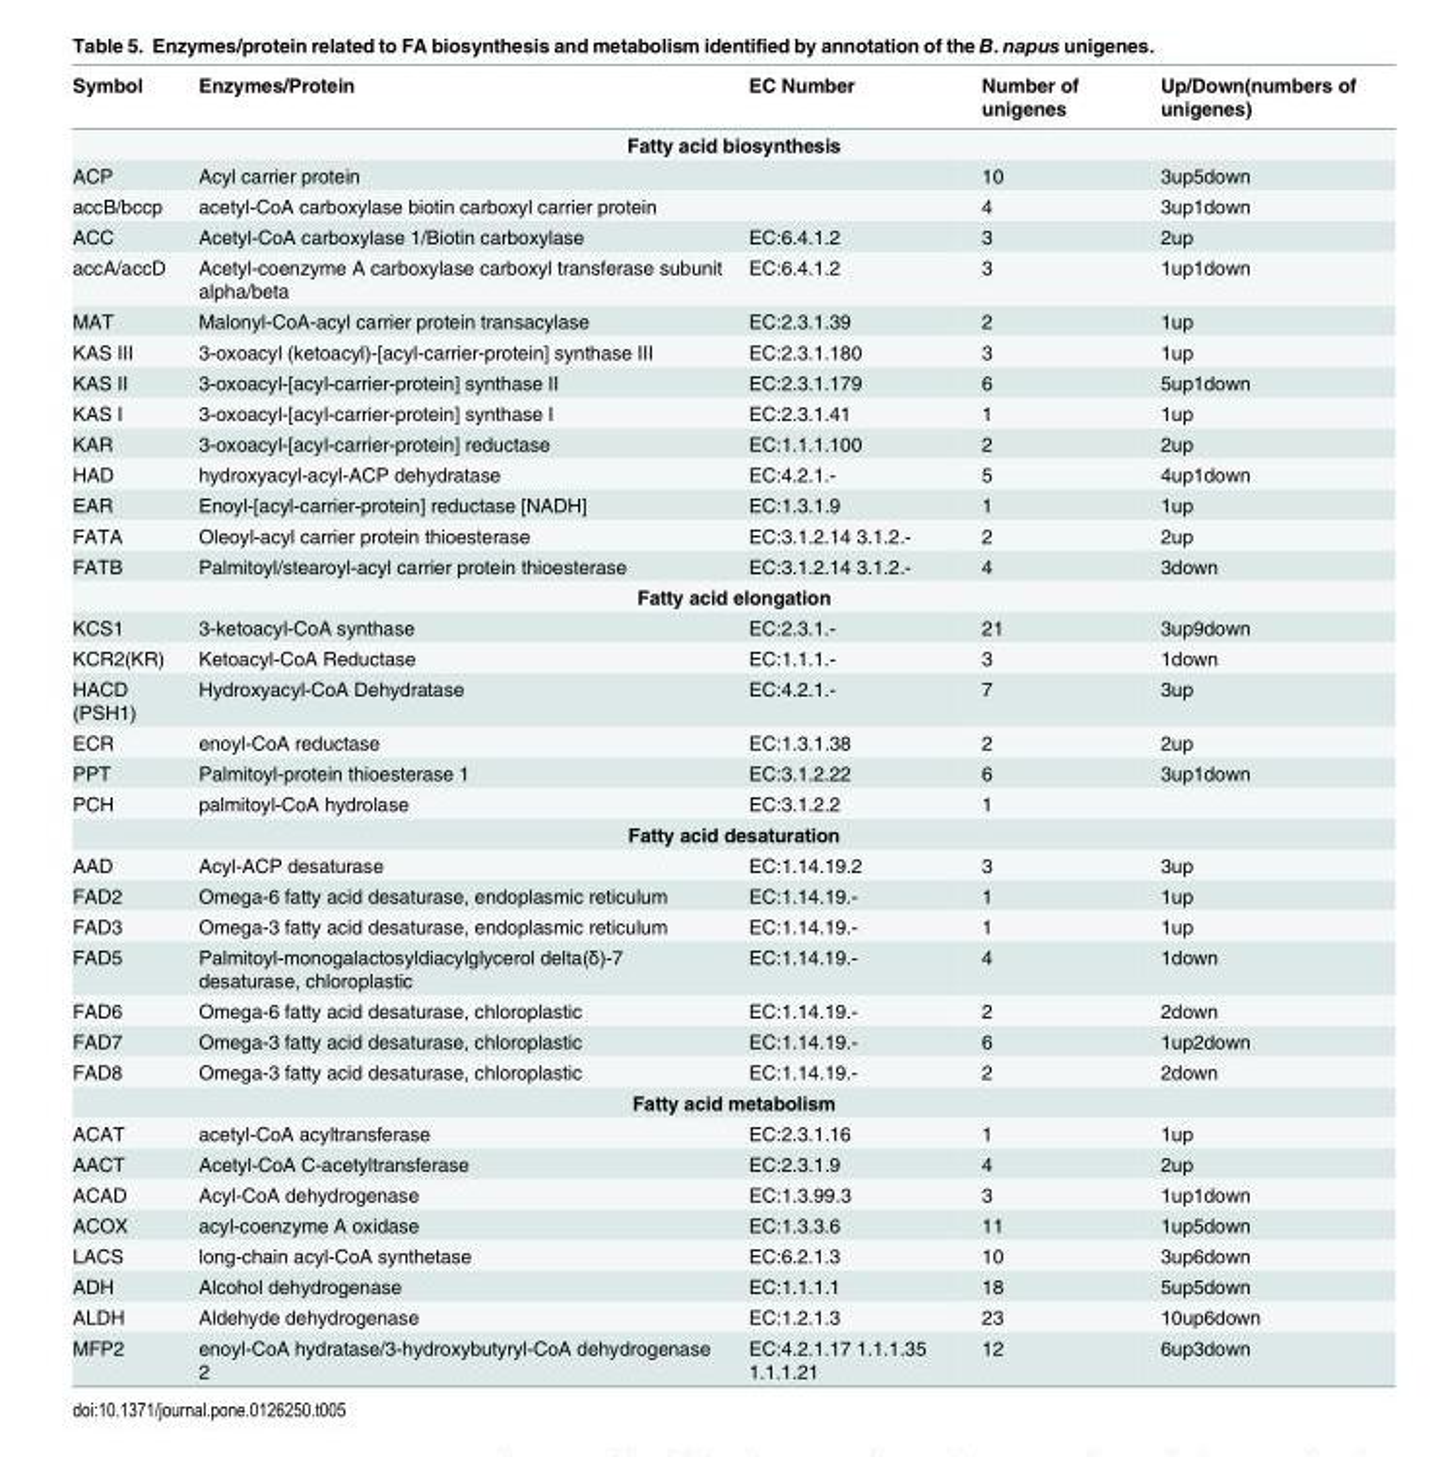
<table><thead><tr><td>Symbol</td><td>Enzymes/Protein</td><td>EC Number</td><td>Number of unigenes</td><td>Up/Down(numbers of unigenes)</td></tr></thead><tbody><tr><td colspan="5">Fatty acid biosynthesis</td></tr><tr><td>ACP</td><td>Acyl carrier protein</td><td></td><td>10</td><td>3up5down</td></tr><tr><td>accB/bccp</td><td>acetyl-CoA carboxylase biotin carboxyl carrier protein</td><td></td><td>4</td><td>3up1down</td></tr><tr><td>ACC</td><td>Acetyl-CoA carboxylase 1/Biotin carboxylase</td><td>EC:6.4.1.2</td><td>3</td><td>2up</td></tr><tr><td>accA/accD</td><td>Acetyl-coenzyme A carboxylase carboxyl transferase subunit alpha/beta</td><td>EC:6.4.1.2</td><td>3</td><td>1up1down</td></tr><tr><td>MAT</td><td>Malonyl-CoA-acyl carrier protein transacylase</td><td>EC:2.3.1.39</td><td>2</td><td>1up</td></tr><tr><td>KAS III</td><td>3-oxoacyl (ketoacyl)-[acyl-carrier-protein] synthase III</td><td>EC:2.3.1.180</td><td>3</td><td>1up</td></tr><tr><td>KAS II</td><td>3-oxoacyl-[acyl-carrier-protein] synthase II</td><td>EC:2.3.1.179</td><td>6</td><td>5up1down</td></tr><tr><td>KAS I</td><td>3-oxoacyl-[acyl-carrier-protein] synthase I</td><td>EC:2.3.1.41</td><td>1</td><td>1up</td></tr><tr><td>KAR</td><td>3-oxoacyl-[acyl-carrier-protein] reductase</td><td>EC:1.1.1.100</td><td>2</td><td>2up</td></tr><tr><td>HAD</td><td>hydroxyacyl-acyl-ACP dehydratase</td><td>EC:4.2.1.-</td><td>5</td><td>4up1down</td></tr><tr><td>EAR</td><td>Enoyl-[acyl-carrier-protein] reductase [NADH]</td><td>EC:1.3.1.9</td><td>1</td><td>1up</td></tr><tr><td>FATA</td><td>Oleoyl-acyl carrier protein thioesterase</td><td>EC:3.1.2.14 3.1.2.-</td><td>2</td><td>2up</td></tr><tr><td>FATB</td><td>Palmitoyl/stearoyl-acyl carrier protein thioesterase</td><td>EC:3.1.2.14 3.1.2.-</td><td>4</td><td>3down</td></tr><tr><td colspan="5">Fatty acid elongation</td></tr><tr><td>KCS1</td><td>3-ketoacyl-CoA synthase</td><td>EC:2.3.1.-</td><td>21</td><td>3up9down</td></tr><tr><td>KCR2(KR)</td><td>Ketoacyl-CoA Reductase</td><td>EC:1.1.1.-</td><td>3</td><td>1down</td></tr><tr><td>HACD (PSH1)</td><td>Hydroxyacyl-CoA Dehydratase</td><td>EC:4.2.1.-</td><td>7</td><td>3up</td></tr><tr><td>ECR</td><td>enoyl-CoA reductase</td><td>EC:1.3.1.38</td><td>2</td><td>2up</td></tr><tr><td>PPT</td><td>Palmitoyl-protein thioesterase 1</td><td>EC:3.1.2.22</td><td>6</td><td>3up1down</td></tr><tr><td>PCH</td><td>palmitoyl-CoA hydrolase</td><td>EC:3.1.2.2</td><td>1</td><td></td></tr><tr><td colspan="5">Fatty acid desaturation</td></tr><tr><td>AAD</td><td>Acyl-ACP desaturase</td><td>EC:1.14.19.2</td><td>3</td><td>3up</td></tr><tr><td>FAD2</td><td>Omega-6 fatty acid desaturase, endoplasmic reticulum</td><td>EC:1.14.19.-</td><td>1</td><td>1up</td></tr><tr><td>FAD3</td><td>Omega-3 fatty acid desaturase, endoplasmic reticulum</td><td>EC:1.14.19.-</td><td>1</td><td>1up</td></tr><tr><td>FAD5</td><td>Palmitoyl-monogalactosyldiacylglycerol delta(δ)-7 desaturase, chloroplastic</td><td>EC:1.14.19.-</td><td>4</td><td>1down</td></tr><tr><td>FAD6</td><td>Omega-6 fatty acid desaturase, chloroplastic</td><td>EC:1.14.19.-</td><td>2</td><td>2down</td></tr><tr><td>FAD7</td><td>Omega-3 fatty acid desaturase, chloroplastic</td><td>EC:1.14.19.-</td><td>6</td><td>1up2down</td></tr><tr><td>FAD8</td><td>Omega-3 fatty acid desaturase, chloroplastic</td><td>EC:1.14.19.-</td><td>2</td><td>2down</td></tr><tr><td colspan="5">Fatty acid metabolism</td></tr><tr><td>ACAT</td><td>acetyl-CoA acyltransferase</td><td>EC:2.3.1.16</td><td>1</td><td>1up</td></tr><tr><td>AACT</td><td>Acetyl-CoA C-acetyltransferase</td><td>EC:2.3.1.9</td><td>4</td><td>2up</td></tr><tr><td>ACAD</td><td>Acyl-CoA dehydrogenase</td><td>EC:1.3.99.3</td><td>3</td><td>1up1down</td></tr><tr><td>ACOX</td><td>acyl-coenzyme A oxidase</td><td>EC:1.3.3.6</td><td>11</td><td>1up5down</td></tr><tr><td>LACS</td><td>long-chain acyl-CoA synthetase</td><td>EC:6.2.1.3</td><td>10</td><td>3up6down</td></tr><tr><td>ADH</td><td>Alcohol dehydrogenase</td><td>EC:1.1.1.1</td><td>18</td><td>5up5down</td></tr><tr><td>ALDH</td><td>Aldehyde dehydrogenase</td><td>EC:1.2.1.3</td><td>23</td><td>10up6down</td></tr><tr><td>MFP2</td><td>enoyl-CoA hydratase/3-hydroxybutyryl-CoA dehydrogenase 2</td><td>EC:4.2.1.17 1.1.1.35 1.1.1.21</td><td>12</td><td>6up3down</td></tr></tbody></table>